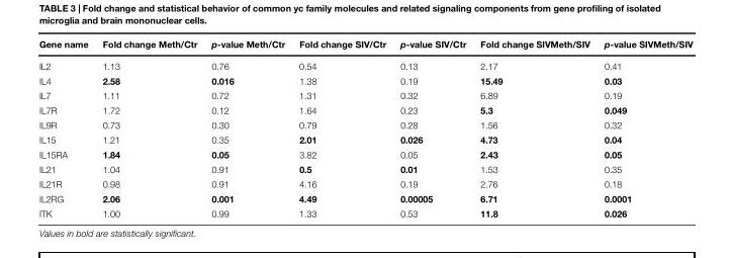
<table><thead><tr><td>Gene name</td><td>Fold change Meth/Ctr</td><td>p-value Meth/Ctr</td><td>Fold change SIV/Ctr</td><td>p-value SIV/Ctr</td><td>Fold change SIVMeth/SIV</td><td>p-value SIVMeth/SIV</td></tr></thead><tbody><tr><td>IL2</td><td>1.13</td><td>0.76</td><td>0.54</td><td>0.13</td><td>2.17</td><td>0.41</td></tr><tr><td>IL4</td><td>2.58</td><td>0.016</td><td>1.38</td><td>0.19</td><td>15.49</td><td>0.03</td></tr><tr><td>IL7</td><td>1.11</td><td>0.72</td><td>1.31</td><td>0.32</td><td>6.89</td><td>0.19</td></tr><tr><td>IL7R</td><td>1.72</td><td>0.12</td><td>1.64</td><td>0.23</td><td>5.3</td><td>0.049</td></tr><tr><td>IL9R</td><td>0.73</td><td>0.30</td><td>0.79</td><td>0.28</td><td>1.56</td><td>0.32</td></tr><tr><td>IL15</td><td>1.21</td><td>0.35</td><td>2.01</td><td>0.026</td><td>4.73</td><td>0.04</td></tr><tr><td>IL15RA</td><td>1.84</td><td>0.05</td><td>3.82</td><td>0.05</td><td>2.43</td><td>0.05</td></tr><tr><td>IL21</td><td>1.04</td><td>0.91</td><td>0.5</td><td>0.01</td><td>1.53</td><td>0.35</td></tr><tr><td>IL21R</td><td>0.98</td><td>0.91</td><td>4.16</td><td>0.19</td><td>2.76</td><td>0.18</td></tr><tr><td>IL2RG</td><td>2.06</td><td>0.001</td><td>4.49</td><td>0.00005</td><td>6.71</td><td>0.0001</td></tr><tr><td>ITK</td><td>1.00</td><td>0.99</td><td>1.33</td><td>0.53</td><td>11.8</td><td>0.026</td></tr></tbody></table>